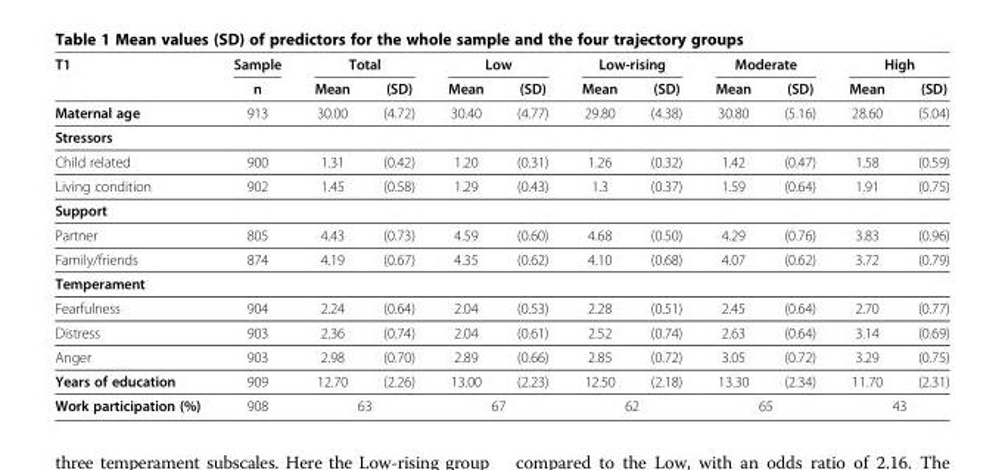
<table><thead><tr><td rowspan="2">T1</td><td rowspan="2">Sample n</td><td colspan="2">Total</td><td colspan="2">Low</td><td colspan="2">Low-rising</td><td colspan="2">Moderate</td><td colspan="2">High</td></tr><tr><td>Mean</td><td>(SD)</td><td>Mean</td><td>(SD)</td><td>Mean</td><td>(SD)</td><td>Mean</td><td>(SD)</td><td>Mean</td><td>(SD)</td></tr></thead><tbody><tr><td>Maternal age</td><td>913</td><td>30.00</td><td>(4.72)</td><td>30.40</td><td>(4.77)</td><td>29.80</td><td>(4.38)</td><td>30.80</td><td>(5.16)</td><td>28.60</td><td>(5.04)</td></tr><tr><td colspan="12">Stressors</td></tr><tr><td>Child related</td><td>900</td><td>1.31</td><td>(0.42)</td><td>1.20</td><td>(0.31)</td><td>1.26</td><td>(0.32)</td><td>1.42</td><td>(0.47)</td><td>1.58</td><td>(0.59)</td></tr><tr><td>Living condition</td><td>902</td><td>1.45</td><td>(0.58)</td><td>1.29</td><td>(0.43)</td><td>1.3</td><td>(0.37)</td><td>1.59</td><td>(0.64)</td><td>1.91</td><td>(0.75)</td></tr><tr><td colspan="12">Support</td></tr><tr><td>Partner</td><td>805</td><td>4.43</td><td>(0.73)</td><td>4.59</td><td>(0.60)</td><td>4.68</td><td>(0.50)</td><td>4.29</td><td>(0.76)</td><td>3.83</td><td>(0.96)</td></tr><tr><td>Family/friends</td><td>874</td><td>4.19</td><td>(0.67)</td><td>4.35</td><td>(0.62)</td><td>4.10</td><td>(0.68)</td><td>4.07</td><td>(0.62)</td><td>3.72</td><td>(0.79)</td></tr><tr><td colspan="12">Temperament</td></tr><tr><td>Fearfulness</td><td>904</td><td>2.24</td><td>(0.64)</td><td>2.04</td><td>(0.53)</td><td>2.28</td><td>(0.51)</td><td>2.45</td><td>(0.64)</td><td>2.70</td><td>(0.77)</td></tr><tr><td>Distress</td><td>903</td><td>2.36</td><td>(0.74)</td><td>2.04</td><td>(0.61)</td><td>2.52</td><td>(0.74)</td><td>2.63</td><td>(0.64)</td><td>3.14</td><td>(0.69)</td></tr><tr><td>Anger</td><td>903</td><td>2.98</td><td>(0.70)</td><td>2.89</td><td>(0.66)</td><td>2.85</td><td>(0.72)</td><td>3.05</td><td>(0.72)</td><td>3.29</td><td>(0.75)</td></tr><tr><td>Years of education</td><td>909</td><td>12.70</td><td>(2.26)</td><td>13.00</td><td>(2.23)</td><td>12.50</td><td>(2.18)</td><td>13.30</td><td>(2.34)</td><td>11.70</td><td>(2.31)</td></tr><tr><td>Work participation (%)</td><td>908</td><td colspan="2">63</td><td colspan="2">67</td><td colspan="2">62</td><td colspan="2">65</td><td colspan="2">43</td></tr></tbody></table>